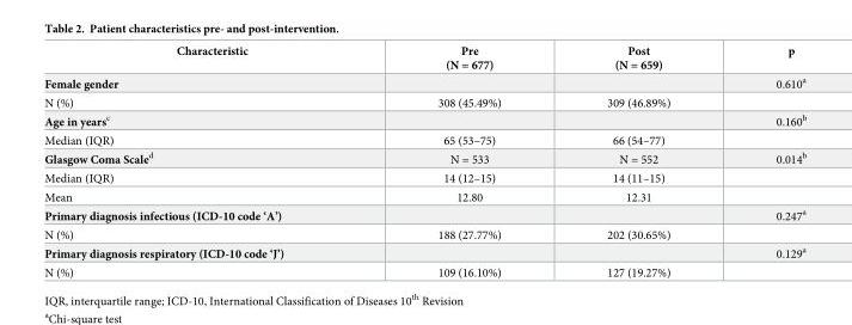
<table><thead><tr><td>Characteristic</td><td>Pre (N = 677)</td><td>Post (N = 659)</td><td>p</td></tr></thead><tbody><tr><td>Female gender</td><td></td><td></td><td>0.610<sup>a</sup></td></tr><tr><td>N (%)</td><td>308 (45.49%)</td><td>309 (46.89%)</td><td></td></tr><tr><td>Age in years<sup>c</sup></td><td></td><td></td><td>0.160<sup>b</sup></td></tr><tr><td>Median (IQR)</td><td>65 (53–75)</td><td>66 (54–77)</td><td></td></tr><tr><td>Glasgow Coma Scale<sup>d</sup></td><td>N = 533</td><td>N = 552</td><td>0.014<sup>b</sup></td></tr><tr><td>Median (IQR)</td><td>14 (12–15)</td><td>14 (11–15)</td><td></td></tr><tr><td>Mean</td><td>12.80</td><td>12.31</td><td></td></tr><tr><td>Primary diagnosis infectious (ICD-10 code ‘A’)</td><td></td><td></td><td>0.247<sup>a</sup></td></tr><tr><td>N (%)</td><td>188 (27.77%)</td><td>202 (30.65%)</td><td></td></tr><tr><td>Primary diagnosis respiratory (ICD-10 code ‘J’)</td><td></td><td></td><td>0.129<sup>a</sup></td></tr><tr><td>N (%)</td><td>109 (16.10%)</td><td>127 (19.27%)</td><td></td></tr></tbody></table>